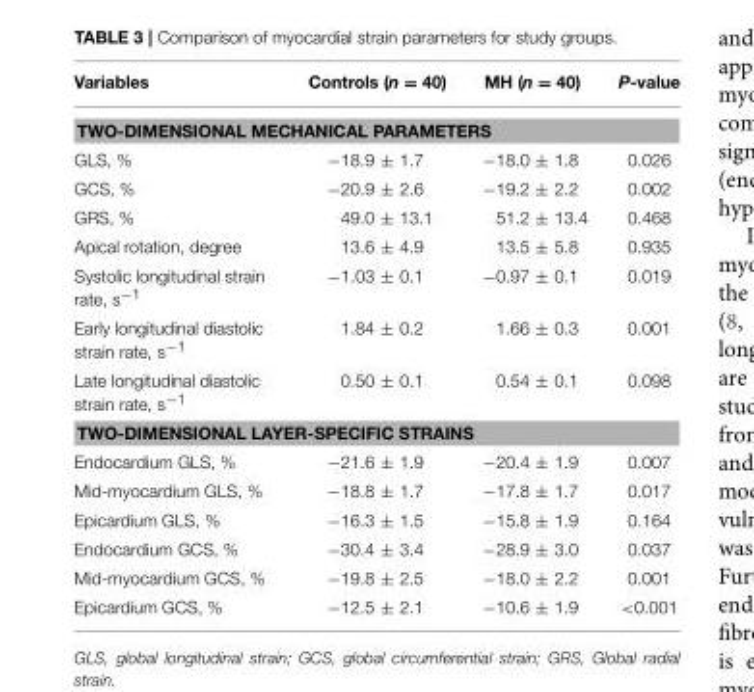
<table><thead><tr><td>Variables</td><td>Controls (n = 40)</td><td>MH (n = 40)</td><td>P-value</td></tr></thead><tbody><tr><td colspan="4">TWO-DIMENSIONAL MECHANICAL PARAMETERS</td></tr><tr><td>GLS, %</td><td>−18.9 ± 1.7</td><td>−18.0 ± 1.8</td><td>0.026</td></tr><tr><td>GCS, %</td><td>−20.9 ± 2.6</td><td>−19.2 ± 2.2</td><td>0.002</td></tr><tr><td>GRS, %</td><td>49.0 ± 13.1</td><td>51.2 ± 13.4</td><td>0.468</td></tr><tr><td>Apical rotation, degree</td><td>13.6 ± 4.9</td><td>13.5 ± 5.8</td><td>0.935</td></tr><tr><td>Systolic longitudinal strain rate, s<sup>−1</sup></td><td>−1.03 ± 0.1</td><td>−0.97 ± 0.1</td><td>0.019</td></tr><tr><td>Early longitudinal diastolic strain rate, s<sup>−1</sup></td><td>1.84 ± 0.2</td><td>1.66 ± 0.3</td><td>0.001</td></tr><tr><td>Late longitudinal diastolic strain rate, s<sup>−1</sup></td><td>0.50 ± 0.1</td><td>0.54 ± 0.1</td><td>0.098</td></tr><tr><td colspan="4">TWO-DIMENSIONAL LAYER-SPECIFIC STRAINS</td></tr><tr><td>Endocardium GLS, %</td><td>−21.6 ± 1.9</td><td>−20.4 ± 1.9</td><td>0.007</td></tr><tr><td>Mid-myocardium GLS, %</td><td>−18.8 ± 1.7</td><td>−17.8 ± 1.7</td><td>0.017</td></tr><tr><td>Epicardium GLS, %</td><td>−16.3 ± 1.5</td><td>−15.8 ± 1.9</td><td>0.164</td></tr><tr><td>Endocardium GCS, %</td><td>−30.4 ± 3.4</td><td>−28.9 ± 3.0</td><td>0.037</td></tr><tr><td>Mid-myocardium GCS, %</td><td>−19.8 ± 2.5</td><td>−18.0 ± 2.2</td><td>0.001</td></tr><tr><td>Epicardium GCS, %</td><td>−12.5 ± 2.1</td><td>−10.6 ± 1.9</td><td>&lt;0.001</td></tr></tbody></table>